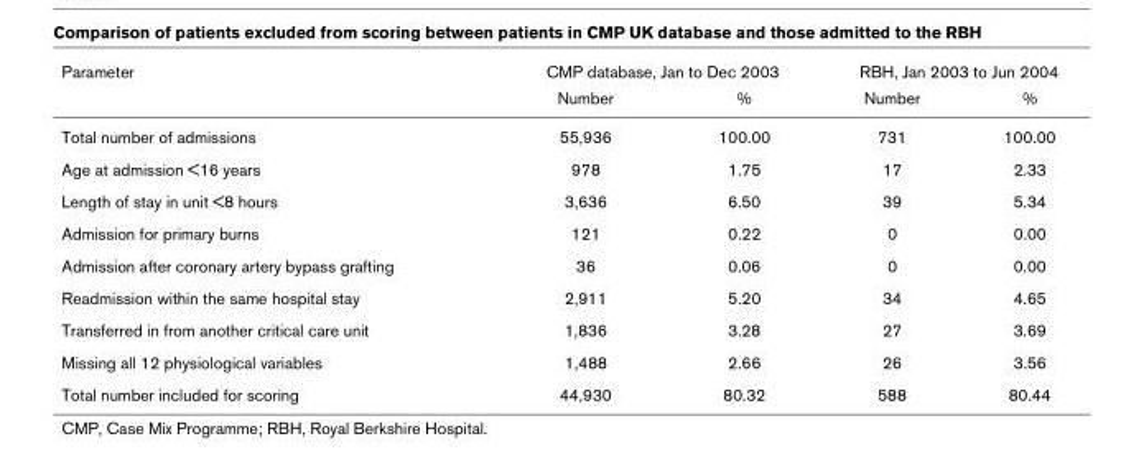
<table><thead><tr><td rowspan="2">Parameter</td><td colspan="2">CMP database, Jan to Dec 2003</td><td colspan="2">RBH, Jan 2003 to Jun 2004</td></tr><tr><td>Number</td><td>%</td><td>Number</td><td>%</td></tr></thead><tbody><tr><td>Total number of admissions</td><td>55,936</td><td>100.00</td><td>731</td><td>100.00</td></tr><tr><td>Age at admission &lt;16 years</td><td>978</td><td>1.75</td><td>17</td><td>2.33</td></tr><tr><td>Length of stay in unit &lt;8 hours</td><td>3,636</td><td>6.50</td><td>39</td><td>5.34</td></tr><tr><td>Admission for primary burns</td><td>121</td><td>0.22</td><td>0</td><td>0.00</td></tr><tr><td>Admission after coronary artery bypass grafting</td><td>36</td><td>0.06</td><td>0</td><td>0.00</td></tr><tr><td>Readmission within the same hospital stay</td><td>2,911</td><td>5.20</td><td>34</td><td>4.65</td></tr><tr><td>Transferred in from another critical care unit</td><td>1,836</td><td>3.28</td><td>27</td><td>3.69</td></tr><tr><td>Missing all 12 physiological variables</td><td>1,488</td><td>2.66</td><td>26</td><td>3.56</td></tr><tr><td>Total number included for scoring</td><td>44,930</td><td>80.32</td><td>588</td><td>80.44</td></tr></tbody></table>